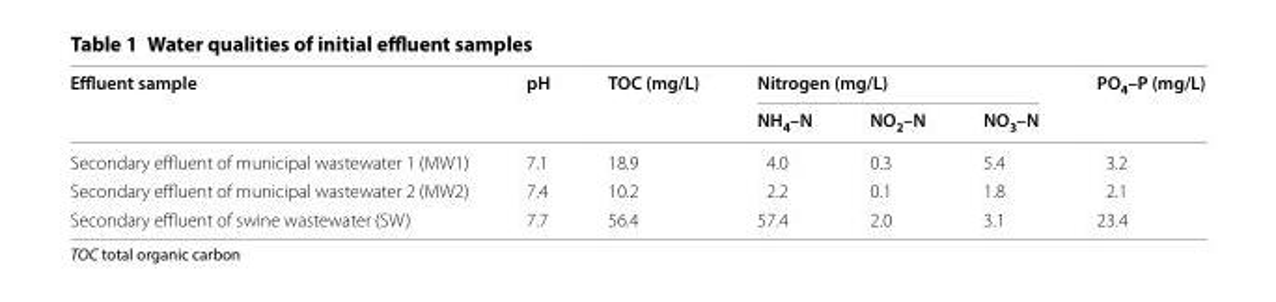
<table><thead><tr><td rowspan="2">Effluent sample</td><td rowspan="2">pH</td><td rowspan="2">TOC (mg/L)</td><td colspan="3">Nitrogen (mg/L)</td><td rowspan="2">PO<sub>4</sub>–P (mg/L)</td></tr><tr><td>NH<sub>4</sub>–N</td><td>NO<sub>2</sub>–N</td><td>NO<sub>3</sub>–N</td></tr></thead><tbody><tr><td>Secondary effluent of municipal wastewater 1 (MW1)</td><td>7.1</td><td>18.9</td><td>4.0</td><td>0.3</td><td>5.4</td><td>3.2</td></tr><tr><td>Secondary effluent of municipal wastewater 2 (MW2)</td><td>7.4</td><td>10.2</td><td>2.2</td><td>0.1</td><td>1.8</td><td>2.1</td></tr><tr><td>Secondary effluent of swine wastewater (SW)</td><td>7.7</td><td>56.4</td><td>57.4</td><td>2.0</td><td>3.1</td><td>23.4</td></tr></tbody></table>